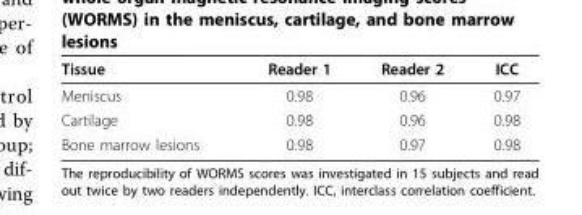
<table><thead><tr><td>Tissue</td><td>Reader 1</td><td>Reader 2</td><td>ICC</td></tr></thead><tbody><tr><td>Meniscus</td><td>0.98</td><td>0.96</td><td>0.97</td></tr><tr><td>Cartilage</td><td>0.98</td><td>0.96</td><td>0.98</td></tr><tr><td>Bone marrow lesions</td><td>0.98</td><td>0.97</td><td>0.98</td></tr></tbody></table>